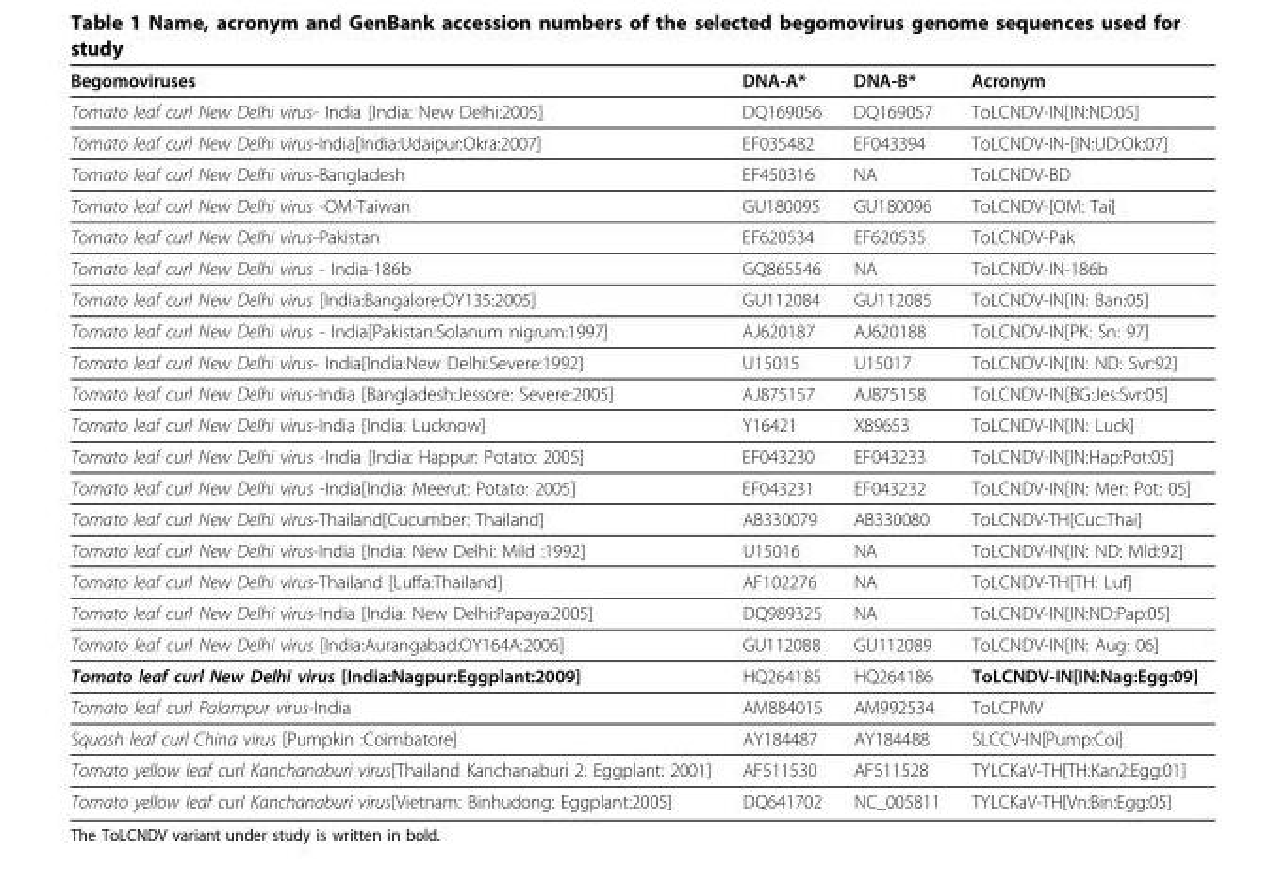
<table><thead><tr><td>Begomoviruses</td><td>DNA-A*</td><td>DNA-B*</td><td>Acronym</td></tr></thead><tbody><tr><td>Tomato leaf curl New Delhi virus- India [India: New Delhi:2005]</td><td>DQ169056</td><td>DQ169057</td><td>ToLCNDV-IN[IN:ND:05]</td></tr><tr><td>Tomato leaf curl New Delhi virus-India[India:Udaipur:Okra:2007]</td><td>EF035482</td><td>EF043394</td><td>ToLCNDV-IN-[IN:UD:Ok:07]</td></tr><tr><td>Tomato leaf curl New Delhi virus-Bangladesh</td><td>EF450316</td><td>NA</td><td>ToLCNDV-BD</td></tr><tr><td>Tomato leaf curl New Delhi virus -OM-Taiwan</td><td>GU180095</td><td>GU180096</td><td>ToLCNDV-[OM: Tai]</td></tr><tr><td>Tomato leaf curl New Delhi virus-Pakistan</td><td>EF620534</td><td>EF620535</td><td>ToLCNDV-Pak</td></tr><tr><td>Tomato leaf curl New Delhi virus - India-186b</td><td>GQ865546</td><td>NA</td><td>ToLCNDV-IN-186b</td></tr><tr><td>Tomato leaf curl New Delhi virus [India:Bangalore:OY135:2005]</td><td>GU112084</td><td>GU112085</td><td>ToLCNDV-IN[IN: Ban:05]</td></tr><tr><td>Tomato leaf curl New Delhi virus - India[Pakistan:Solanum nigrum:1997]</td><td>AJ620187</td><td>AJ620188</td><td>ToLCNDV-IN[PK: Sn: 97]</td></tr><tr><td>Tomato leaf curl New Delhi virus- India[India:New Delhi:Severe:1992]</td><td>U15015</td><td>U15017</td><td>ToLCNDV-IN[IN: ND: Svr:92]</td></tr><tr><td>Tomato leaf curl New Delhi virus-India [Bangladesh:Jessore: Severe:2005]</td><td>AJ875157</td><td>AJ875158</td><td>ToLCNDV-IN[BG:Jes:Svr:05]</td></tr><tr><td>Tomato leaf curl New Delhi virus-India [India: Lucknow]</td><td>Y16421</td><td>X89653</td><td>ToLCNDV-IN[IN: Luck]</td></tr><tr><td>Tomato leaf curl New Delhi virus -India [India: Happur: Potato: 2005]</td><td>EF043230</td><td>EF043233</td><td>ToLCNDV-IN[IN:Hap:Pot:05]</td></tr><tr><td>Tomato leaf curl New Delhi virus -India[India: Meerut: Potato: 2005]</td><td>EF043231</td><td>EF043232</td><td>ToLCNDV-IN[IN: Mer: Pot: 05]</td></tr><tr><td>Tomato leaf curl New Delhi virus-Thailand[Cucumber: Thailand]</td><td>AB330079</td><td>AB330080</td><td>ToLCNDV-TH[Cuc:Thai]</td></tr><tr><td>Tomato leaf curl New Delhi virus-India [India: New Delhi: Mild :1992]</td><td>U15016</td><td>NA</td><td>ToLCNDV-IN[IN: ND: Mld:92]</td></tr><tr><td>Tomato leaf curl New Delhi virus-Thailand [Luffa:Thailand]</td><td>AF102276</td><td>NA</td><td>ToLCNDV-TH[TH: Luf]</td></tr><tr><td>Tomato leaf curl New Delhi virus-India [India: New Delhi:Papaya:2005]</td><td>DQ989325</td><td>NA</td><td>ToLCNDV-IN[IN:ND:Pap:05]</td></tr><tr><td>Tomato leaf curl New Delhi virus [India:Aurangabad:OY164A:2006]</td><td>GU112088</td><td>GU112089</td><td>ToLCNDV-IN[IN: Aug: 06]</td></tr><tr><td>Tomato leaf curl New Delhi virus [India:Nagpur:Eggplant:2009]</td><td>HQ264185</td><td>HQ264186</td><td>ToLCNDV-IN[IN:Nag:Egg:09]</td></tr><tr><td>Tomato leaf curl Palampur virus-India</td><td>AM884015</td><td>AM992534</td><td>ToLCPMV</td></tr><tr><td>Squash leaf curl China virus [Pumpkin :Coimbatore]</td><td>AY184487</td><td>AY184488</td><td>SLCCV-IN[Pump:Coi]</td></tr><tr><td>Tomato yellow leaf curl Kanchanaburi virus[Thailand Kanchanaburi 2: Eggplant: 2001]</td><td>AF511530</td><td>AF511528</td><td>TYLCKaV-TH[TH:Kan2:Egg:01]</td></tr><tr><td>Tomato yellow leaf curl Kanchanaburi virus[Vietnam: Binhudong: Eggplant:2005]</td><td>DQ641702</td><td>NC_005811</td><td>TYLCKaV-TH[Vn:Bin:Egg:05]</td></tr></tbody></table>